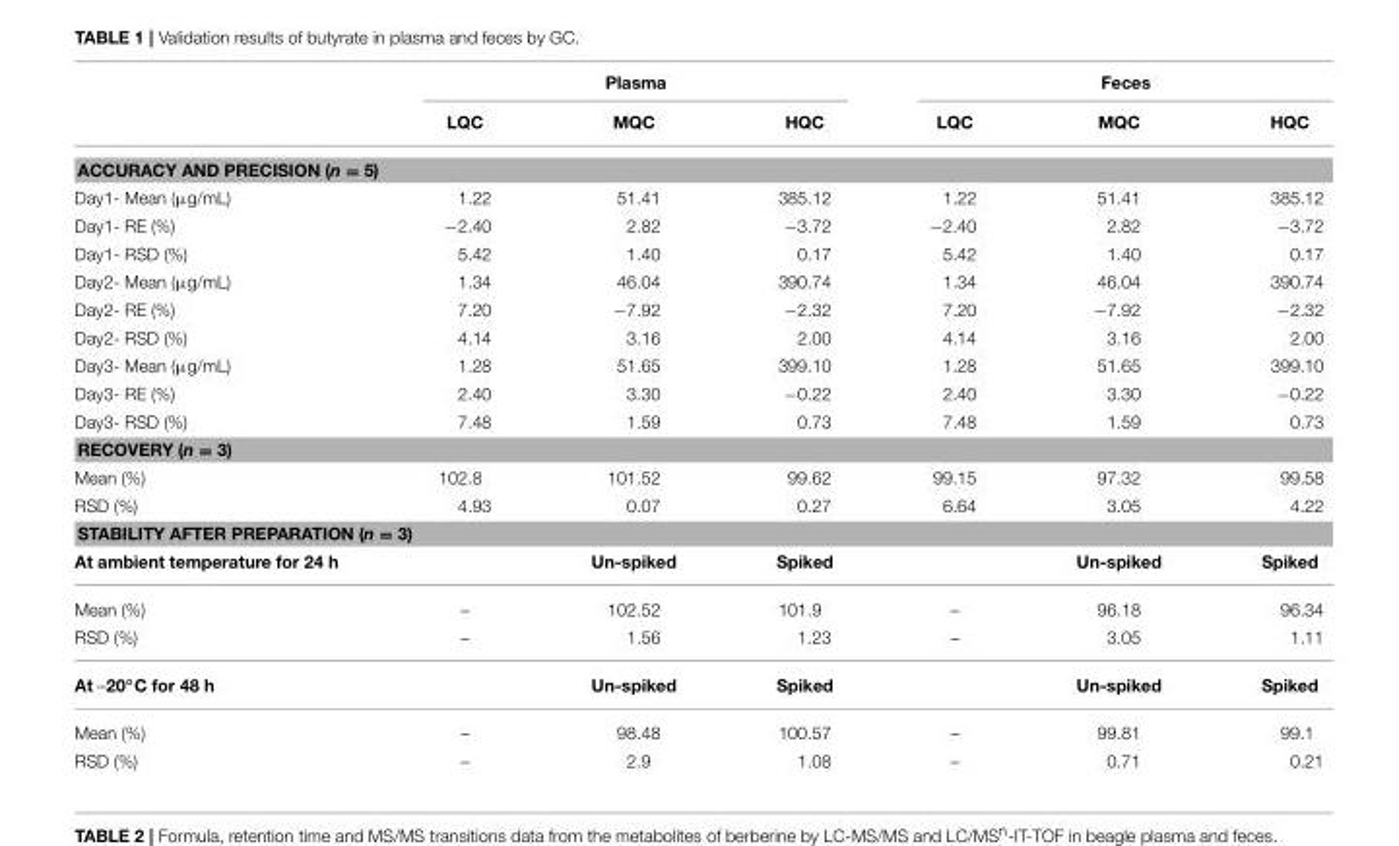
<table><thead><tr><td rowspan="2"></td><td colspan="3">Plasma</td><td colspan="3">Feces</td></tr><tr><td>LQC</td><td>MQC</td><td>HQC</td><td>LQC</td><td>MQC</td><td>HQC</td></tr></thead><tbody><tr><td colspan="7">ACCURACY AND PRECISION (n = 5)</td></tr><tr><td>Day1- Mean (µg/mL)</td><td>1.22</td><td>51.41</td><td>385.12</td><td>1.22</td><td>51.41</td><td>385.12</td></tr><tr><td>Day1- RE (%)</td><td>−2.40</td><td>2.82</td><td>−3.72</td><td>−2.40</td><td>2.82</td><td>−3.72</td></tr><tr><td>Day1- RSD (%)</td><td>5.42</td><td>1.40</td><td>0.17</td><td>5.42</td><td>1.40</td><td>0.17</td></tr><tr><td>Day2- Mean (µg/mL)</td><td>1.34</td><td>46.04</td><td>390.74</td><td>1.34</td><td>46.04</td><td>390.74</td></tr><tr><td>Day2- RE (%)</td><td>7.20</td><td>−7.92</td><td>−2.32</td><td>7.20</td><td>−7.92</td><td>−2.32</td></tr><tr><td>Day2- RSD (%)</td><td>4.14</td><td>3.16</td><td>2.00</td><td>4.14</td><td>3.16</td><td>2.00</td></tr><tr><td>Day3- Mean (µg/mL)</td><td>1.28</td><td>51.65</td><td>399.10</td><td>1.28</td><td>51.65</td><td>399.10</td></tr><tr><td>Day3- RE (%)</td><td>2.40</td><td>3.30</td><td>−0.22</td><td>2.40</td><td>3.30</td><td>−0.22</td></tr><tr><td>Day3- RSD (%)</td><td>7.48</td><td>1.59</td><td>0.73</td><td>7.48</td><td>1.59</td><td>0.73</td></tr><tr><td colspan="7">RECOVERY (n = 3)</td></tr><tr><td>Mean (%)</td><td>102.8</td><td>101.52</td><td>99.62</td><td>99.15</td><td>97.32</td><td>99.58</td></tr><tr><td>RSD (%)</td><td>4.93</td><td>0.07</td><td>0.27</td><td>6.64</td><td>3.05</td><td>4.22</td></tr><tr><td colspan="7">STABILITY AFTER PREPARATION (n = 3)</td></tr><tr><td>At ambient temperature for 24 h</td><td></td><td>Un-spiked</td><td>Spiked</td><td></td><td>Un-spiked</td><td>Spiked</td></tr><tr><td>Mean (%)</td><td>–</td><td>102.52</td><td>101.9</td><td>–</td><td>96.18</td><td>96.34</td></tr><tr><td>RSD (%)</td><td>–</td><td>1.56</td><td>1.23</td><td>–</td><td>3.05</td><td>1.11</td></tr><tr><td>At –20◦C for 48 h</td><td></td><td>Un-spiked</td><td>Spiked</td><td></td><td>Un-spiked</td><td>Spiked</td></tr><tr><td>Mean (%)</td><td>–</td><td>98.48</td><td>100.57</td><td>–</td><td>99.81</td><td>99.1</td></tr><tr><td>RSD (%)</td><td>–</td><td>2.9</td><td>1.08</td><td>–</td><td>0.71</td><td>0.21</td></tr></tbody></table>